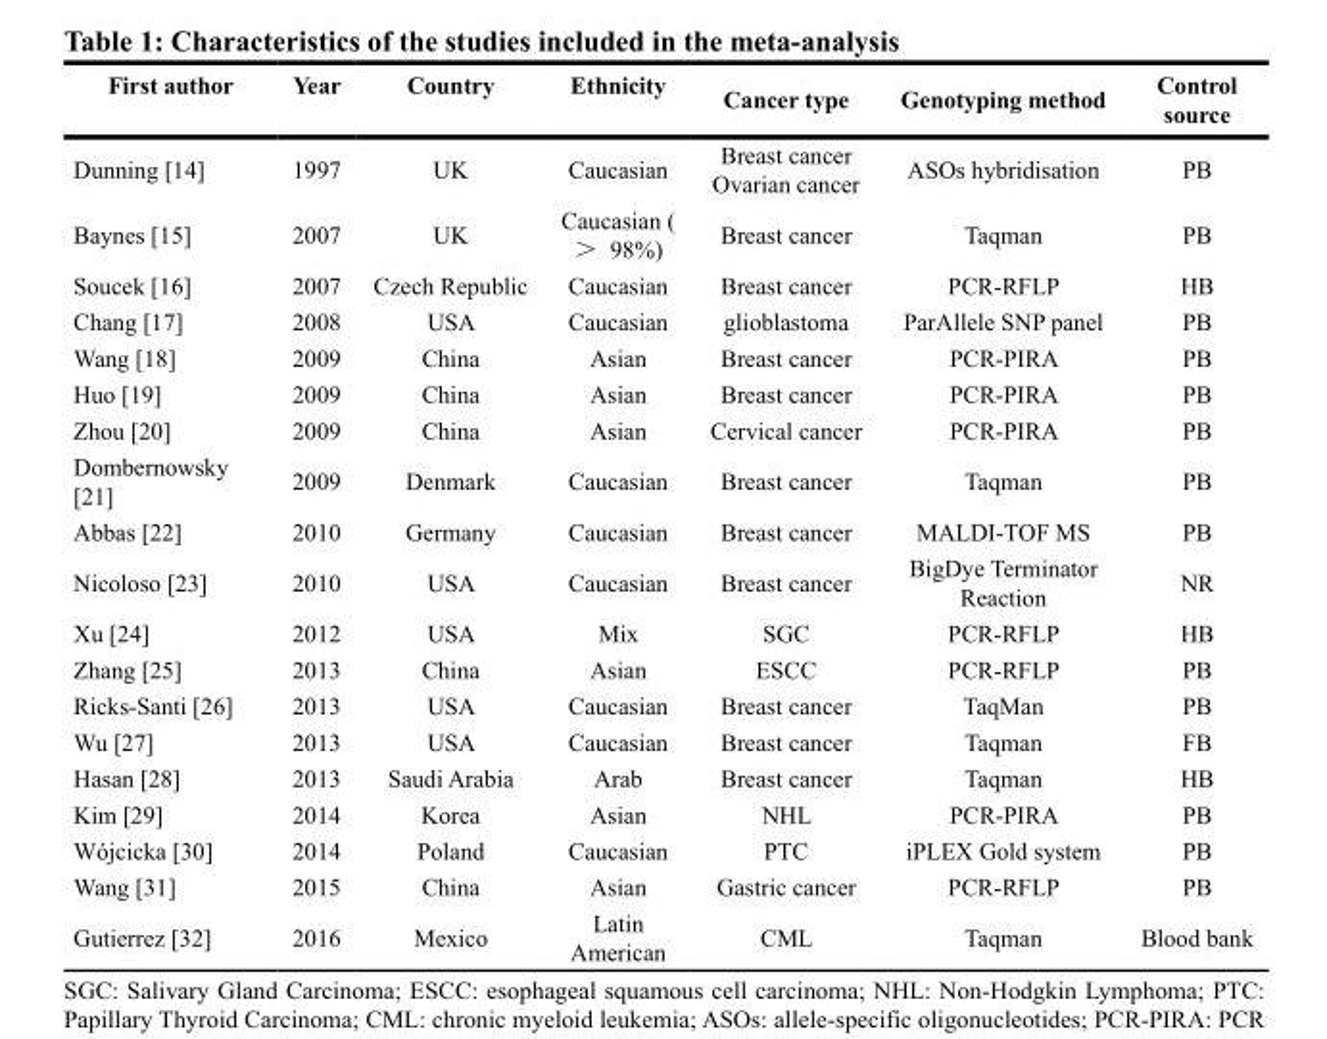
<table><thead><tr><td>First author</td><td>Year</td><td>Country</td><td>Ethnicity</td><td>Cancer type</td><td>Genotyping method</td><td>Control source</td></tr></thead><tbody><tr><td>Dunning [14]</td><td>1997</td><td>UK</td><td>Caucasian</td><td>Breast cancer Ovarian cancer</td><td>ASOs hybridisation</td><td>PB</td></tr><tr><td>Baynes [15]</td><td>2007</td><td>UK</td><td>Caucasian ( ＞ 98%)</td><td>Breast cancer</td><td>Taqman</td><td>PB</td></tr><tr><td>Soucek [16]</td><td>2007</td><td>Czech Republic</td><td>Caucasian</td><td>Breast cancer</td><td>PCR-RFLP</td><td>HB</td></tr><tr><td>Chang [17]</td><td>2008</td><td>USA</td><td>Caucasian</td><td>glioblastoma</td><td>ParAllele SNP panel</td><td>PB</td></tr><tr><td>Wang [18]</td><td>2009</td><td>China</td><td>Asian</td><td>Breast cancer</td><td>PCR-PIRA</td><td>PB</td></tr><tr><td>Huo [19]</td><td>2009</td><td>China</td><td>Asian</td><td>Breast cancer</td><td>PCR-PIRA</td><td>PB</td></tr><tr><td>Zhou [20]</td><td>2009</td><td>China</td><td>Asian</td><td>Cervical cancer</td><td>PCR-PIRA</td><td>PB</td></tr><tr><td>Dombernowsky [21]</td><td>2009</td><td>Denmark</td><td>Caucasian</td><td>Breast cancer</td><td>Taqman</td><td>PB</td></tr><tr><td>Abbas [22]</td><td>2010</td><td>Germany</td><td>Caucasian</td><td>Breast cancer</td><td>MALDI-TOF MS</td><td>PB</td></tr><tr><td>Nicoloso [23]</td><td>2010</td><td>USA</td><td>Caucasian</td><td>Breast cancer</td><td>BigDye Terminator Reaction</td><td>NR</td></tr><tr><td>Xu [24]</td><td>2012</td><td>USA</td><td>Mix</td><td>SGC</td><td>PCR-RFLP</td><td>HB</td></tr><tr><td>Zhang [25]</td><td>2013</td><td>China</td><td>Asian</td><td>ESCC</td><td>PCR-RFLP</td><td>PB</td></tr><tr><td>Ricks-Santi [26]</td><td>2013</td><td>USA</td><td>Caucasian</td><td>Breast cancer</td><td>TaqMan</td><td>PB</td></tr><tr><td>Wu [27]</td><td>2013</td><td>USA</td><td>Caucasian</td><td>Breast cancer</td><td>Taqman</td><td>FB</td></tr><tr><td>Hasan [28]</td><td>2013</td><td>Saudi Arabia</td><td>Arab</td><td>Breast cancer</td><td>Taqman</td><td>HB</td></tr><tr><td>Kim [29]</td><td>2014</td><td>Korea</td><td>Asian</td><td>NHL</td><td>PCR-PIRA</td><td>PB</td></tr><tr><td>Wójcicka [30]</td><td>2014</td><td>Poland</td><td>Caucasian</td><td>PTC</td><td>iPLEX Gold system</td><td>PB</td></tr><tr><td>Wang [31]</td><td>2015</td><td>China</td><td>Asian</td><td>Gastric cancer</td><td>PCR-RFLP</td><td>PB</td></tr><tr><td>Gutierrez [32]</td><td>2016</td><td>Mexico</td><td>Latin American</td><td>CML</td><td>Taqman</td><td>Blood bank</td></tr></tbody></table>